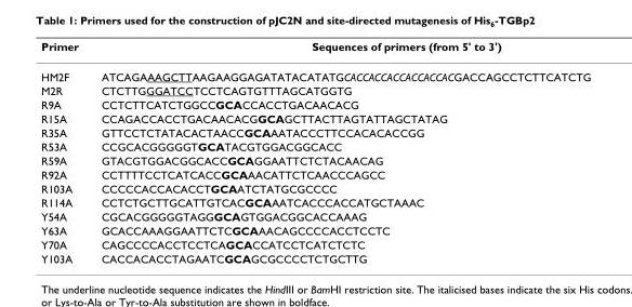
<table><thead><tr><td>Primer</td><td>Sequences of primers (from 5&#x27; to 3&#x27;)</td></tr></thead><tbody><tr><td>HM2F</td><td>ATCAGAAAGCTTAAGAAGGAGATATACATATGCACCACCACCACCACCACGACCAGCCTCTTCATCTG</td></tr><tr><td>M2R</td><td>CTCTTGGGATCCTCCTCAGTGTTTAGCATGGTG</td></tr><tr><td>R9A</td><td>CCTCTTCATCTGGCCGCACCACCTGACAACACG</td></tr><tr><td>R15A</td><td>CCAGACCACCTGACAACACGGCAGCTTACTTAGTATTAGCTATAG</td></tr><tr><td>R35A</td><td>GTTCCTCTATACACTAACCGCAAATACCCTTCCACACACCGG</td></tr><tr><td>R53A</td><td>CCGCACGGGGGTGCATACGTGGACGGCACC</td></tr><tr><td>R59A</td><td>GTACGTGGACGGCACCGCAGGAATTCTCTACAACAG</td></tr><tr><td>R92A</td><td>CCTTTTCCTCATCACCGCAAACATTCTCAACCCAGCC</td></tr><tr><td>R103A</td><td>CCCCCACCACACCTGCAATCTATGCGCCCC</td></tr><tr><td>R114A</td><td>CCTCTGCTTGCATTGTCACGCAAATCACCCACCATGCTAAAC</td></tr><tr><td>Y54A</td><td>CGCACGGGGGTAGGGCAGTGGACGGCACCAAAG</td></tr><tr><td>Y63A</td><td>GCACCAAAGGAATTCTCGCAAACAGCCCCACCTCCTC</td></tr><tr><td>Y70A</td><td>CAGCCCCACCTCCTCAGCACCATCCTCATCTCTC</td></tr><tr><td>Y103A</td><td>CACCACACCTAGAATCGCAGCGCCCCTCTGCTTG</td></tr></tbody></table>